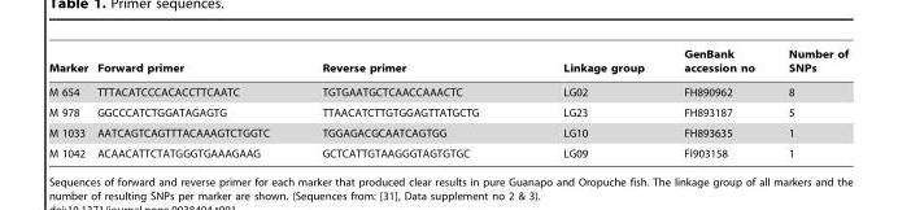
<table><thead><tr><td>Marker</td><td>Forward primer</td><td>Reverse primer</td><td>Linkage group</td><td>GenBank accession no</td><td>Number of SNPs</td></tr></thead><tbody><tr><td>M 654</td><td>TTTACATCCCACACCTTCAATC</td><td>TGTGAATGCTCAACCAAACTC</td><td>LG02</td><td>FH890962</td><td>8</td></tr><tr><td>M 978</td><td>GGCCCATCTGGATAGAGTG</td><td>TTAACATCTTGTGGAGTTATGCTG</td><td>LG23</td><td>FH893187</td><td>5</td></tr><tr><td>M 1033</td><td>AATCAGTCAGTTTACAAAGTCTGGTC</td><td>TGGAGACGCAATCAGTGG</td><td>LG10</td><td>FH893635</td><td>1</td></tr><tr><td>M 1042</td><td>ACAACATTCTATGGGTGAAAGAAG</td><td>GCTCATTGTAAGGGTAGTGTGC</td><td>LG09</td><td>FI903158</td><td>1</td></tr></tbody></table>